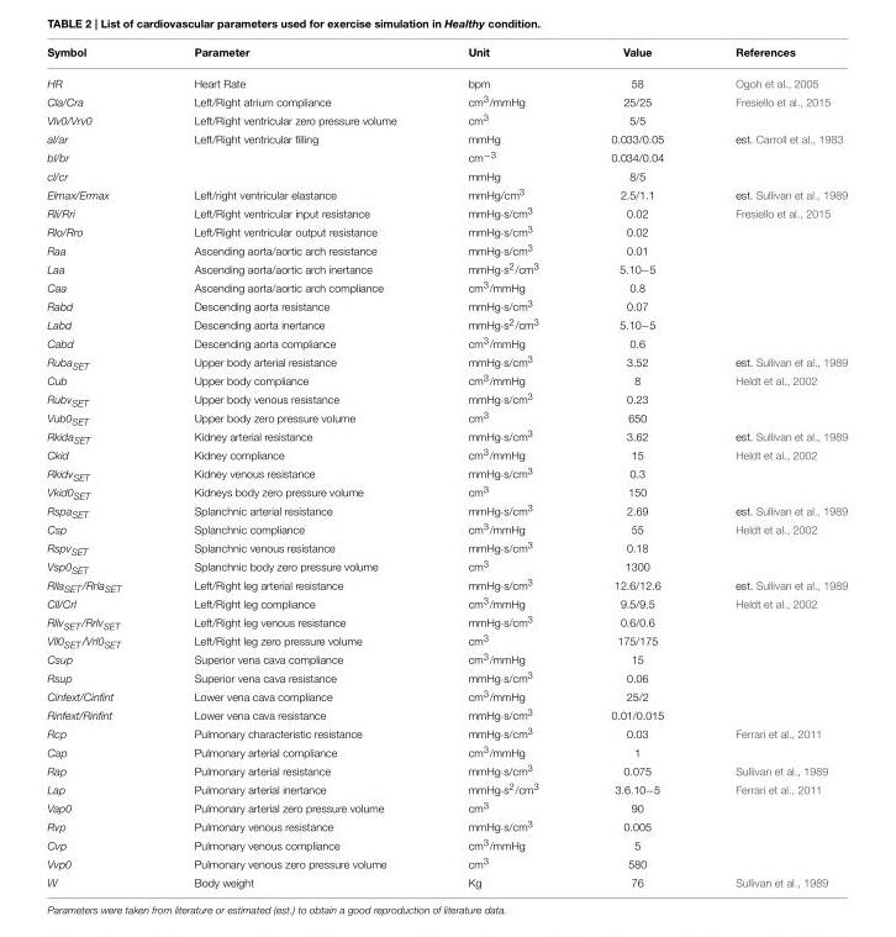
<table><thead><tr><td>Symbol</td><td>Parameter</td><td>Unit</td><td>Value</td><td>References</td></tr></thead><tbody><tr><td>HR</td><td>Heart Rate</td><td>bpm</td><td>58</td><td>Ogoh et al., 2005</td></tr><tr><td>Cla/Cra</td><td>Left/Right atrium compliance</td><td>cm<sup>3</sup>/mmHg</td><td>25/25</td><td>Fresiello et al., 2015</td></tr><tr><td>Vlv0/Vrv0</td><td>Left/Right ventricular zero pressure volume</td><td>cm<sup>3</sup></td><td>5/5</td><td></td></tr><tr><td>al/ar</td><td>Left/Right ventricular filling</td><td>mmHg</td><td>0.033/0.05</td><td>est. Carroll et al., 1983</td></tr><tr><td>bl/br</td><td></td><td>cm<sup>−3</sup></td><td>0.034/0.04</td><td></td></tr><tr><td>cl/cr</td><td></td><td>mmHg</td><td>8/5</td><td></td></tr><tr><td>Elmax/Ermax</td><td>Left/right ventricular elastance</td><td>mmHg/cm<sup>3</sup></td><td>2.5/1.1</td><td>est. Sullivan et al., 1989</td></tr><tr><td>Rli/Rri</td><td>Left/Right ventricular input resistance</td><td>mmHg·s/cm<sup>3</sup></td><td>0.02</td><td>Fresiello et al., 2015</td></tr><tr><td>Rlo/Rro</td><td>Left/Right ventricular output resistance</td><td>mmHg·s/cm<sup>3</sup></td><td>0.02</td><td></td></tr><tr><td>Raa</td><td>Ascending aorta/aortic arch resistance</td><td>mmHg·s/cm<sup>3</sup></td><td>0.01</td><td></td></tr><tr><td>Laa</td><td>Ascending aorta/aortic arch inertance</td><td>mmHg·s<sup>2</sup>/cm<sup>3</sup></td><td>5.10−5</td><td></td></tr><tr><td>Caa</td><td>Ascending aorta/aortic arch compliance</td><td>cm<sup>3</sup>/mmHg</td><td>0.8</td><td></td></tr><tr><td>Rabd</td><td>Descending aorta resistance</td><td>mmHg·s/cm<sup>3</sup></td><td>0.07</td><td></td></tr><tr><td>Labd</td><td>Descending aorta inertance</td><td>mmHg·s<sup>2</sup>/cm<sup>3</sup></td><td>5.10−5</td><td></td></tr><tr><td>Cabd</td><td>Descending aorta compliance</td><td>cm<sup>3</sup>/mmHg</td><td>0.6</td><td></td></tr><tr><td>RubaSET</td><td>Upper body arterial resistance</td><td>mmHg·s/cm<sup>3</sup></td><td>3.52</td><td>est. Sullivan et al., 1989</td></tr><tr><td>Cub</td><td>Upper body compliance</td><td>cm<sup>3</sup>/mmHg</td><td>8</td><td>Heldt et al., 2002</td></tr><tr><td>RubvSET</td><td>Upper body venous resistance</td><td>mmHg·s/cm<sup>3</sup></td><td>0.23</td><td></td></tr><tr><td>Vub0SET</td><td>Upper body zero pressure volume</td><td>cm<sup>3</sup></td><td>650</td><td></td></tr><tr><td>RkidaSET</td><td>Kidney arterial resistance</td><td>mmHg·s/cm<sup>3</sup></td><td>3.62</td><td>est. Sullivan et al., 1989</td></tr><tr><td>Ckid</td><td>Kidney compliance</td><td>cm<sup>3</sup>/mmHg</td><td>15</td><td>Heldt et al., 2002</td></tr><tr><td>RkidvSET</td><td>Kidney venous resistance</td><td>mmHg·s/cm<sup>3</sup></td><td>0.3</td><td></td></tr><tr><td>Vkid0SET</td><td>Kidneys body zero pressure volume</td><td>cm<sup>3</sup></td><td>150</td><td></td></tr><tr><td>RspaSET</td><td>Splanchnic arterial resistance</td><td>mmHg·s/cm<sup>3</sup></td><td>2.69</td><td>est. Sullivan et al., 1989</td></tr><tr><td>Csp</td><td>Splanchnic compliance</td><td>cm<sup>3</sup>/mmHg</td><td>55</td><td>Heldt et al., 2002</td></tr><tr><td>RspvSET</td><td>Splanchnic venous resistance</td><td>mmHg·s/cm<sup>3</sup></td><td>0.18</td><td></td></tr><tr><td>Vsp0SET</td><td>Splanchnic body zero pressure volume</td><td>cm<sup>3</sup></td><td>1300</td><td></td></tr><tr><td>RllaSET/RrlaSET</td><td>Left/Right leg arterial resistance</td><td>mmHg·s/cm<sup>3</sup></td><td>12.6/12.6</td><td>est. Sullivan et al., 1989</td></tr><tr><td>Cll/Crl</td><td>Left/Right leg compliance</td><td>cm<sup>3</sup>/mmHg</td><td>9.5/9.5</td><td>Heldt et al., 2002</td></tr><tr><td>RllvSET/RrlvSET</td><td>Left/Right leg venous resistance</td><td>mmHg·s/cm<sup>3</sup></td><td>0.6/0.6</td><td></td></tr><tr><td>Vll0SET/Vrl0SET</td><td>Left/Right leg zero pressure volume</td><td>cm<sup>3</sup></td><td>175/175</td><td></td></tr><tr><td>Csup</td><td>Superior vena cava compliance</td><td>cm<sup>3</sup>/mmHg</td><td>15</td><td></td></tr><tr><td>Rsup</td><td>Superior vena cava resistance</td><td>mmHg·s/cm<sup>3</sup></td><td>0.06</td><td></td></tr><tr><td>Cinfext/Cinfint</td><td>Lower vena cava compliance</td><td>cm<sup>3</sup>/mmHg</td><td>25/2</td><td></td></tr><tr><td>Rinfext/Rinfint</td><td>Lower vena cava resistance</td><td>mmHg·s/cm<sup>3</sup></td><td>0.01/0.015</td><td></td></tr><tr><td>Rcp</td><td>Pulmonary characteristic resistance</td><td>mmHg·s/cm<sup>3</sup></td><td>0.03</td><td>Ferrari et al., 2011</td></tr><tr><td>Cap</td><td>Pulmonary arterial compliance</td><td>cm<sup>3</sup>/mmHg</td><td>1</td><td></td></tr><tr><td>Rap</td><td>Pulmonary arterial resistance</td><td>mmHg·s/cm<sup>3</sup></td><td>0.075</td><td>Sullivan et al., 1989</td></tr><tr><td>Lap</td><td>Pulmonary arterial inertance</td><td>mmHg·s<sup>2</sup>/cm<sup>3</sup></td><td>3.6.10−5</td><td>Ferrari et al., 2011</td></tr><tr><td>Vap0</td><td>Pulmonary arterial zero pressure volume</td><td>cm<sup>3</sup></td><td>90</td><td></td></tr><tr><td>Rvp</td><td>Pulmonary venous resistance</td><td>mmHg·s/cm<sup>3</sup></td><td>0.005</td><td></td></tr><tr><td>Cvp</td><td>Pulmonary venous compliance</td><td>cm<sup>3</sup>/mmHg</td><td>5</td><td></td></tr><tr><td>Vvp0</td><td>Pulmonary venous zero pressure volume</td><td>cm<sup>3</sup></td><td>580</td><td></td></tr><tr><td>W</td><td>Body weight</td><td>Kg</td><td>76</td><td>Sullivan et al., 1989</td></tr></tbody></table>